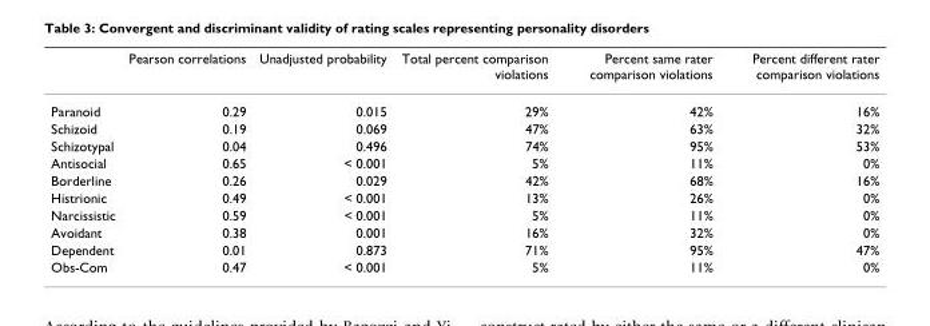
<table><thead><tr><td></td><td>Pearson correlations</td><td>Unadjusted probability</td><td>Total percent comparison violations</td><td>Percent same rater comparison violations</td><td>Percent different rater comparison violations</td></tr></thead><tbody><tr><td>Paranoid</td><td>0.29</td><td>0.015</td><td>29%</td><td>42%</td><td>16%</td></tr><tr><td>Schizoid</td><td>0.19</td><td>0.069</td><td>47%</td><td>63%</td><td>32%</td></tr><tr><td>Schizotypal</td><td>0.04</td><td>0.496</td><td>74%</td><td>95%</td><td>53%</td></tr><tr><td>Antisocial</td><td>0.65</td><td>&lt; 0.001</td><td>5%</td><td>11%</td><td>0%</td></tr><tr><td>Borderline</td><td>0.26</td><td>0.029</td><td>42%</td><td>68%</td><td>16%</td></tr><tr><td>Histrionic</td><td>0.49</td><td>&lt; 0.001</td><td>13%</td><td>26%</td><td>0%</td></tr><tr><td>Narcissistic</td><td>0.59</td><td>&lt; 0.001</td><td>5%</td><td>11%</td><td>0%</td></tr><tr><td>Avoidant</td><td>0.38</td><td>0.001</td><td>16%</td><td>32%</td><td>0%</td></tr><tr><td>Dependent</td><td>0.01</td><td>0.873</td><td>71%</td><td>95%</td><td>47%</td></tr><tr><td>Obs-Com</td><td>0.47</td><td>&lt; 0.001</td><td>5%</td><td>11%</td><td>0%</td></tr></tbody></table>